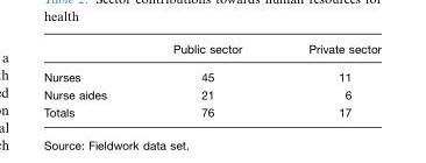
<table><thead><tr><td></td><td>Public sector</td><td>Private sector</td></tr></thead><tbody><tr><td>Nurses</td><td>45</td><td>11</td></tr><tr><td>Nurse aides</td><td>21</td><td>6</td></tr><tr><td>Totals</td><td>76</td><td>17</td></tr></tbody></table>